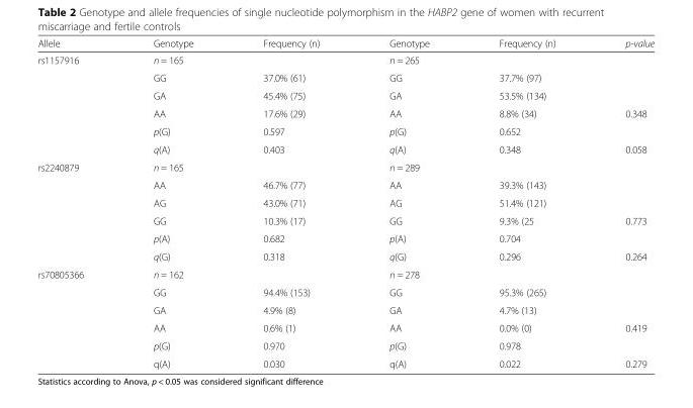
<table><thead><tr><td>Allele</td><td>Genotype</td><td>Frequency (n)</td><td>Genotype</td><td>Frequency (n)</td><td>p-value</td></tr></thead><tbody><tr><td rowspan="6">rs1157916</td><td>n = 165</td><td></td><td>n = 265</td><td></td><td></td></tr><tr><td>GG</td><td>37.0% (61)</td><td>GG</td><td>37.7% (97)</td><td></td></tr><tr><td>GA</td><td>45.4% (75)</td><td>GA</td><td>53.5% (134)</td><td></td></tr><tr><td>AA</td><td>17.6% (29)</td><td>AA</td><td>8.8% (34)</td><td>0.348</td></tr><tr><td>p(G)</td><td>0.597</td><td>p(G)</td><td>0.652</td><td></td></tr><tr><td>q(A)</td><td>0.403</td><td>q(A)</td><td>0.348</td><td>0.058</td></tr><tr><td rowspan="6">rs2240879</td><td>n = 165</td><td></td><td>n = 289</td><td></td><td></td></tr><tr><td>AA</td><td>46.7% (77)</td><td>AA</td><td>39.3% (143)</td><td></td></tr><tr><td>AG</td><td>43.0% (71)</td><td>AG</td><td>51.4% (121)</td><td></td></tr><tr><td>GG</td><td>10.3% (17)</td><td>GG</td><td>9.3% (25</td><td>0.773</td></tr><tr><td>p(A)</td><td>0.682</td><td>p(A)</td><td>0.704</td><td></td></tr><tr><td>q(G)</td><td>0.318</td><td>q(G)</td><td>0.296</td><td>0.264</td></tr><tr><td rowspan="6">rs70805366</td><td>n = 162</td><td></td><td>n = 278</td><td></td><td></td></tr><tr><td>GG</td><td>94.4% (153)</td><td>GG</td><td>95.3% (265)</td><td></td></tr><tr><td>GA</td><td>4.9% (8)</td><td>GA</td><td>4.7% (13)</td><td></td></tr><tr><td>AA</td><td>0.6% (1)</td><td>AA</td><td>0.0% (0)</td><td>0.419</td></tr><tr><td>p(G)</td><td>0.970</td><td>p(G)</td><td>0.978</td><td></td></tr><tr><td>q(A)</td><td>0.030</td><td>q(A)</td><td>0.022</td><td>0.279</td></tr></tbody></table>